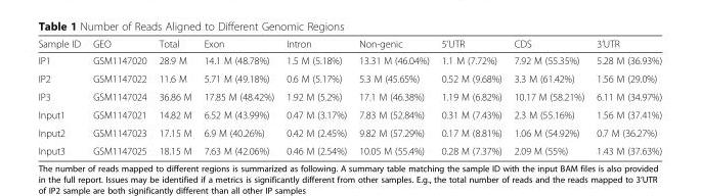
<table><thead><tr><td>Sample ID</td><td>GEO</td><td>Total</td><td>Exon</td><td>Intron</td><td>Non-genic</td><td>5’UTR</td><td>CDS</td><td>3’UTR</td></tr></thead><tbody><tr><td>IP1</td><td>GSM1147020</td><td>28.9 M</td><td>14.1 M (48.78%)</td><td>1.5 M (5.18%)</td><td>13.31 M (46.04%)</td><td>1.1 M (7.72%)</td><td>7.92 M (55.35%)</td><td>5.28 M (36.93%)</td></tr><tr><td>IP2</td><td>GSM1147022</td><td>11.6 M</td><td>5.71 M (49.18%)</td><td>0.6 M (5.17%)</td><td>5.3 M (45.65%)</td><td>0.52 M (9.68%)</td><td>3.3 M (61.42%)</td><td>1.56 M (29.0%)</td></tr><tr><td>IP3</td><td>GSM1147024</td><td>36.86 M</td><td>17.85 M (48.42%)</td><td>1.92 M (5.2%)</td><td>17.1 M (46.38%)</td><td>1.19 M (6.82%)</td><td>10.17 M (58.21%)</td><td>6.11 M (34.97%)</td></tr><tr><td>Input1</td><td>GSM1147021</td><td>14.82 M</td><td>6.52 M (43.99%)</td><td>0.47 M (3.17%)</td><td>7.83 M (52.84%)</td><td>0.31 M (7.43%)</td><td>2.3 M (55.16%)</td><td>1.56 M (37.41%)</td></tr><tr><td>Input2</td><td>GSM1147023</td><td>17.15 M</td><td>6.9 M (40.26%)</td><td>0.42 M (2.45%)</td><td>9.82 M (57.29%)</td><td>0.17 M (8.81%)</td><td>1.06 M (54.92%)</td><td>0.7 M (36.27%)</td></tr><tr><td>Input3</td><td>GSM1147025</td><td>18.15 M</td><td>7.63 M (42.06%)</td><td>0.46 M (2.54%)</td><td>10.05 M (55.4%)</td><td>0.28 M (7.37%)</td><td>2.09 M (55%)</td><td>1.43 M (37.63%)</td></tr></tbody></table>